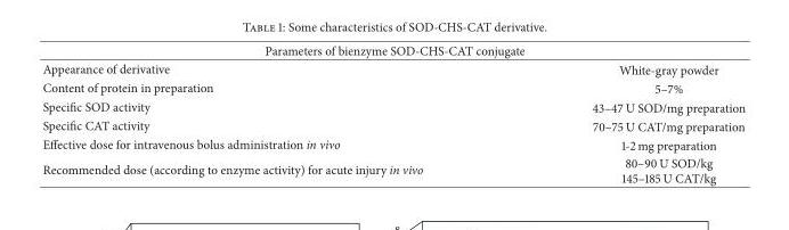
<table><thead><tr><td colspan="2">Parameters of bienzyme SOD-CHS-CAT conjugate</td></tr><tr><td>Appearance of derivative</td><td>White-gray powder</td></tr></thead><tbody><tr><td>Content of protein in preparation</td><td>5–7%</td></tr><tr><td>Specific SOD activity</td><td>43–47 U SOD/mg preparation</td></tr><tr><td>Specific CAT activity</td><td>70–75 U CAT/mg preparation</td></tr><tr><td>Effective dose for intravenous bolus administration in vivo</td><td>1-2 mg preparation</td></tr><tr><td>Recommended dose (according to enzyme activity) for acute injury in vivo</td><td>80–90 U SOD/kg 145–185 U CAT/kg</td></tr></tbody></table>